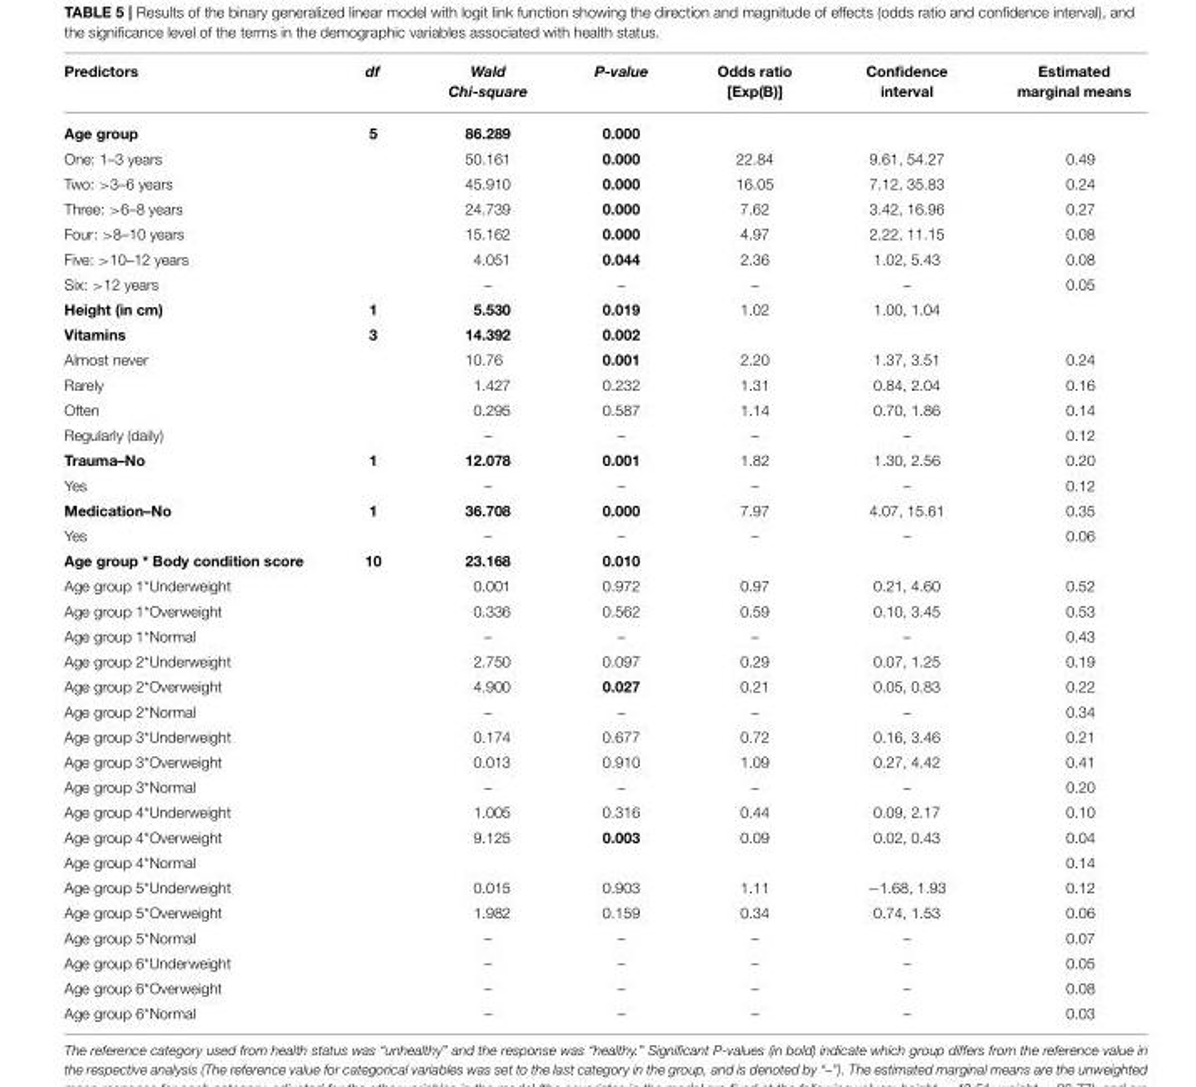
<table><thead><tr><td>Predictors</td><td>df</td><td>Wald Chi-square</td><td>P-value</td><td>Odds ratio [Exp(B)]</td><td>Confidence interval</td><td>Estimated marginal means</td></tr></thead><tbody><tr><td>Age group</td><td>5</td><td>86.289</td><td>0.000</td><td></td><td></td><td></td></tr><tr><td>One: 1–3 years</td><td></td><td>50.161</td><td>0.000</td><td>22.84</td><td>9.61, 54.27</td><td>0.49</td></tr><tr><td>Two: &gt;3–6 years</td><td></td><td>45.910</td><td>0.000</td><td>16.05</td><td>7.12, 35.83</td><td>0.24</td></tr><tr><td>Three: &gt;6–8 years</td><td></td><td>24.739</td><td>0.000</td><td>7.62</td><td>3.42, 16.96</td><td>0.27</td></tr><tr><td>Four: &gt;8–10 years</td><td></td><td>15.162</td><td>0.000</td><td>4.97</td><td>2.22, 11.15</td><td>0.08</td></tr><tr><td>Five: &gt;10–12 years</td><td></td><td>4.051</td><td>0.044</td><td>2.36</td><td>1.02, 5.43</td><td>0.08</td></tr><tr><td>Six: &gt;12 years</td><td></td><td>–</td><td>–</td><td>–</td><td>–</td><td>0.05</td></tr><tr><td>Height (in cm)</td><td>1</td><td>5.530</td><td>0.019</td><td>1.02</td><td>1.00, 1.04</td><td></td></tr><tr><td>Vitamins</td><td>3</td><td>14.392</td><td>0.002</td><td></td><td></td><td></td></tr><tr><td>Almost never</td><td></td><td>10.76</td><td>0.001</td><td>2.20</td><td>1.37, 3.51</td><td>0.24</td></tr><tr><td>Rarely</td><td></td><td>1.427</td><td>0.232</td><td>1.31</td><td>0.84, 2.04</td><td>0.16</td></tr><tr><td>Often</td><td></td><td>0.295</td><td>0.587</td><td>1.14</td><td>0.70, 1.86</td><td>0.14</td></tr><tr><td>Regularly (daily)</td><td></td><td>–</td><td>–</td><td>–</td><td>–</td><td>0.12</td></tr><tr><td>Trauma–No</td><td>1</td><td>12.078</td><td>0.001</td><td>1.82</td><td>1.30, 2.56</td><td>0.20</td></tr><tr><td>Yes</td><td></td><td>–</td><td>–</td><td>–</td><td>–</td><td>0.12</td></tr><tr><td>Medication–No</td><td>1</td><td>36.708</td><td>0.000</td><td>7.97</td><td>4.07, 15.61</td><td>0.35</td></tr><tr><td>Yes</td><td></td><td>–</td><td>–</td><td>–</td><td>–</td><td>0.06</td></tr><tr><td>Age group * Body condition score</td><td>10</td><td>23.168</td><td>0.010</td><td></td><td></td><td></td></tr><tr><td>Age group 1*Underweight</td><td></td><td>0.001</td><td>0.972</td><td>0.97</td><td>0.21, 4.60</td><td>0.52</td></tr><tr><td>Age group 1*Overweight</td><td></td><td>0.336</td><td>0.562</td><td>0.59</td><td>0.10, 3.45</td><td>0.53</td></tr><tr><td>Age group 1*Normal</td><td></td><td>–</td><td>–</td><td>–</td><td>–</td><td>0.43</td></tr><tr><td>Age group 2*Underweight</td><td></td><td>2.750</td><td>0.097</td><td>0.29</td><td>0.07, 1.25</td><td>0.19</td></tr><tr><td>Age group 2*Overweight</td><td></td><td>4.900</td><td>0.027</td><td>0.21</td><td>0.05, 0.83</td><td>0.22</td></tr><tr><td>Age group 2*Normal</td><td></td><td>–</td><td>–</td><td>–</td><td>–</td><td>0.34</td></tr><tr><td>Age group 3*Underweight</td><td></td><td>0.174</td><td>0.677</td><td>0.72</td><td>0.16, 3.46</td><td>0.21</td></tr><tr><td>Age group 3*Overweight</td><td></td><td>0.013</td><td>0.910</td><td>1.09</td><td>0.27, 4.42</td><td>0.41</td></tr><tr><td>Age group 3*Normal</td><td></td><td>–</td><td>–</td><td>–</td><td>–</td><td>0.20</td></tr><tr><td>Age group 4*Underweight</td><td></td><td>1.005</td><td>0.316</td><td>0.44</td><td>0.09, 2.17</td><td>0.10</td></tr><tr><td>Age group 4*Overweight</td><td></td><td>9.125</td><td>0.003</td><td>0.09</td><td>0.02, 0.43</td><td>0.04</td></tr><tr><td>Age group 4*Normal</td><td></td><td></td><td></td><td></td><td></td><td>0.14</td></tr><tr><td>Age group 5*Underweight</td><td></td><td>0.015</td><td>0.903</td><td>1.11</td><td>−1.68, 1.93</td><td>0.12</td></tr><tr><td>Age group 5*Overweight</td><td></td><td>1.982</td><td>0.159</td><td>0.34</td><td>0.74, 1.53</td><td>0.06</td></tr><tr><td>Age group 5*Normal</td><td></td><td>–</td><td>–</td><td>–</td><td>–</td><td>0.07</td></tr><tr><td>Age group 6*Underweight</td><td></td><td>–</td><td>–</td><td>–</td><td>–</td><td>0.05</td></tr><tr><td>Age group 6*Overweight</td><td></td><td>–</td><td>–</td><td>–</td><td>–</td><td>0.08</td></tr><tr><td>Age group 6*Normal</td><td></td><td>–</td><td>–</td><td>–</td><td>–</td><td>0.03</td></tr></tbody></table>